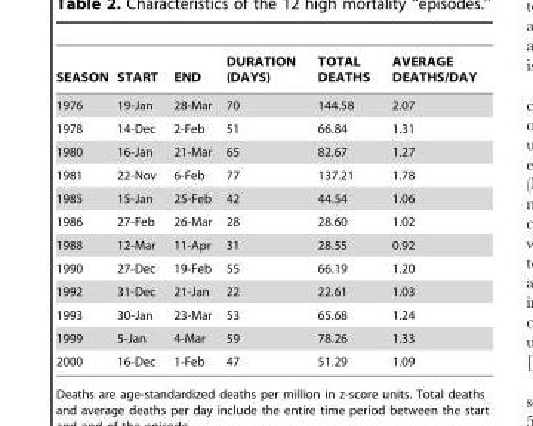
<table><thead><tr><td>SEASON</td><td>START</td><td>END</td><td>DURATION (DAYS)</td><td>TOTAL DEATHS</td><td>AVERAGE DEATHS/DAY</td></tr></thead><tbody><tr><td>1976</td><td>19-Jan</td><td>28-Mar</td><td>70</td><td>144.58</td><td>2.07</td></tr><tr><td>1978</td><td>14-Dec</td><td>2-Feb</td><td>51</td><td>66.84</td><td>1.31</td></tr><tr><td>1980</td><td>16-Jan</td><td>21-Mar</td><td>65</td><td>82.67</td><td>1.27</td></tr><tr><td>1981</td><td>22-Nov</td><td>6-Feb</td><td>77</td><td>137.21</td><td>1.78</td></tr><tr><td>1985</td><td>15-Jan</td><td>25-Feb</td><td>42</td><td>44.54</td><td>1.06</td></tr><tr><td>1986</td><td>27-Feb</td><td>26-Mar</td><td>28</td><td>28.60</td><td>1.02</td></tr><tr><td>1988</td><td>12-Mar</td><td>11-Apr</td><td>31</td><td>28.55</td><td>0.92</td></tr><tr><td>1990</td><td>27-Dec</td><td>19-Feb</td><td>55</td><td>66.19</td><td>1.20</td></tr><tr><td>1992</td><td>31-Dec</td><td>21-Jan</td><td>22</td><td>22.61</td><td>1.03</td></tr><tr><td>1993</td><td>30-Jan</td><td>23-Mar</td><td>53</td><td>65.68</td><td>1.24</td></tr><tr><td>1999</td><td>5-Jan</td><td>4-Mar</td><td>59</td><td>78.26</td><td>1.33</td></tr><tr><td>2000</td><td>16-Dec</td><td>1-Feb</td><td>47</td><td>51.29</td><td>1.09</td></tr></tbody></table>